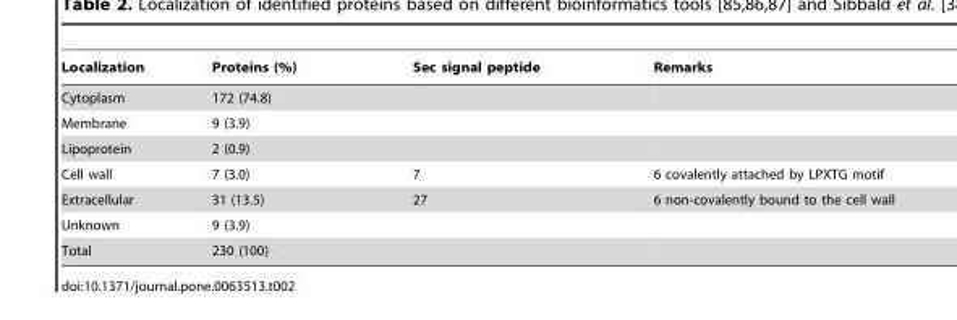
<table><thead><tr><td>Localization</td><td>Proteins (%)</td><td>Sec signal peptide</td><td>Remarks</td></tr></thead><tbody><tr><td>Cytoplasm</td><td>172 (74.8)</td><td></td><td></td></tr><tr><td>Membrane</td><td>9 (3.9)</td><td></td><td></td></tr><tr><td>Lipoprotein</td><td>2 (0.9)</td><td></td><td></td></tr><tr><td>Cell wall</td><td>7 (3.0)</td><td>7</td><td>6 covalently attached by LPXTG motif</td></tr><tr><td>Extracellular</td><td>31 (13.5)</td><td>27</td><td>6 non-covalently bound to the cell wall</td></tr><tr><td>Unknown</td><td>9 (3.9)</td><td></td><td></td></tr><tr><td>Total</td><td>230 (100)</td><td></td><td></td></tr></tbody></table>